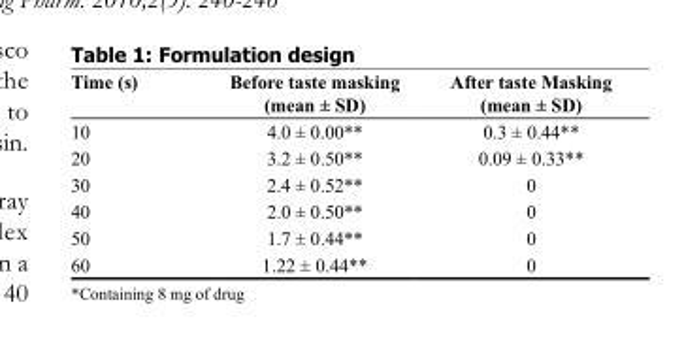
<table><thead><tr><td>Time (s)</td><td>Before taste masking (mean ± SD)</td><td>After taste Masking (mean ± SD)</td></tr></thead><tbody><tr><td>10</td><td>4.0 ± 0.00**</td><td>0.3 ± 0.44**</td></tr><tr><td>20</td><td>3.2 ± 0.50**</td><td>0.09 ± 0.33**</td></tr><tr><td>30</td><td>2.4 ± 0.52**</td><td>0</td></tr><tr><td>40</td><td>2.0 ± 0.50**</td><td>0</td></tr><tr><td>50</td><td>1.7 ± 0.44**</td><td>0</td></tr><tr><td>60</td><td>1.22 ± 0.44**</td><td>0</td></tr></tbody></table>